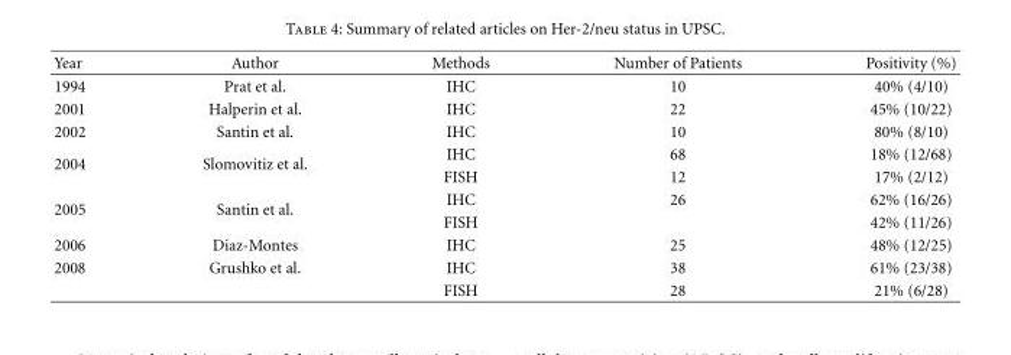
<table><thead><tr><td>Year</td><td>Author</td><td>Methods</td><td>Number of Patients</td><td>Positivity (%)</td></tr></thead><tbody><tr><td>1994</td><td>Prat et al.</td><td>IHC</td><td>10</td><td>40% (4/10)</td></tr><tr><td>2001</td><td>Halperin et al.</td><td>IHC</td><td>22</td><td>45% (10/22)</td></tr><tr><td>2002</td><td>Santin et al.</td><td>IHC</td><td>10</td><td>80% (8/10)</td></tr><tr><td rowspan="2">2004</td><td rowspan="2">Slomovitiz et al.</td><td>IHC</td><td>68</td><td>18% (12/68)</td></tr><tr><td>FISH</td><td>12</td><td>17% (2/12)</td></tr><tr><td rowspan="2">2005</td><td rowspan="2">Santin et al.</td><td>IHC</td><td>26</td><td>62% (16/26)</td></tr><tr><td>FISH</td><td></td><td>42% (11/26)</td></tr><tr><td>2006</td><td>Diaz-Montes</td><td>IHC</td><td>25</td><td>48% (12/25)</td></tr><tr><td rowspan="2">2008</td><td>Grushko et al.</td><td>IHC</td><td>38</td><td>61% (23/38)</td></tr><tr><td></td><td>FISH</td><td>28</td><td>21% (6/28)</td></tr></tbody></table>